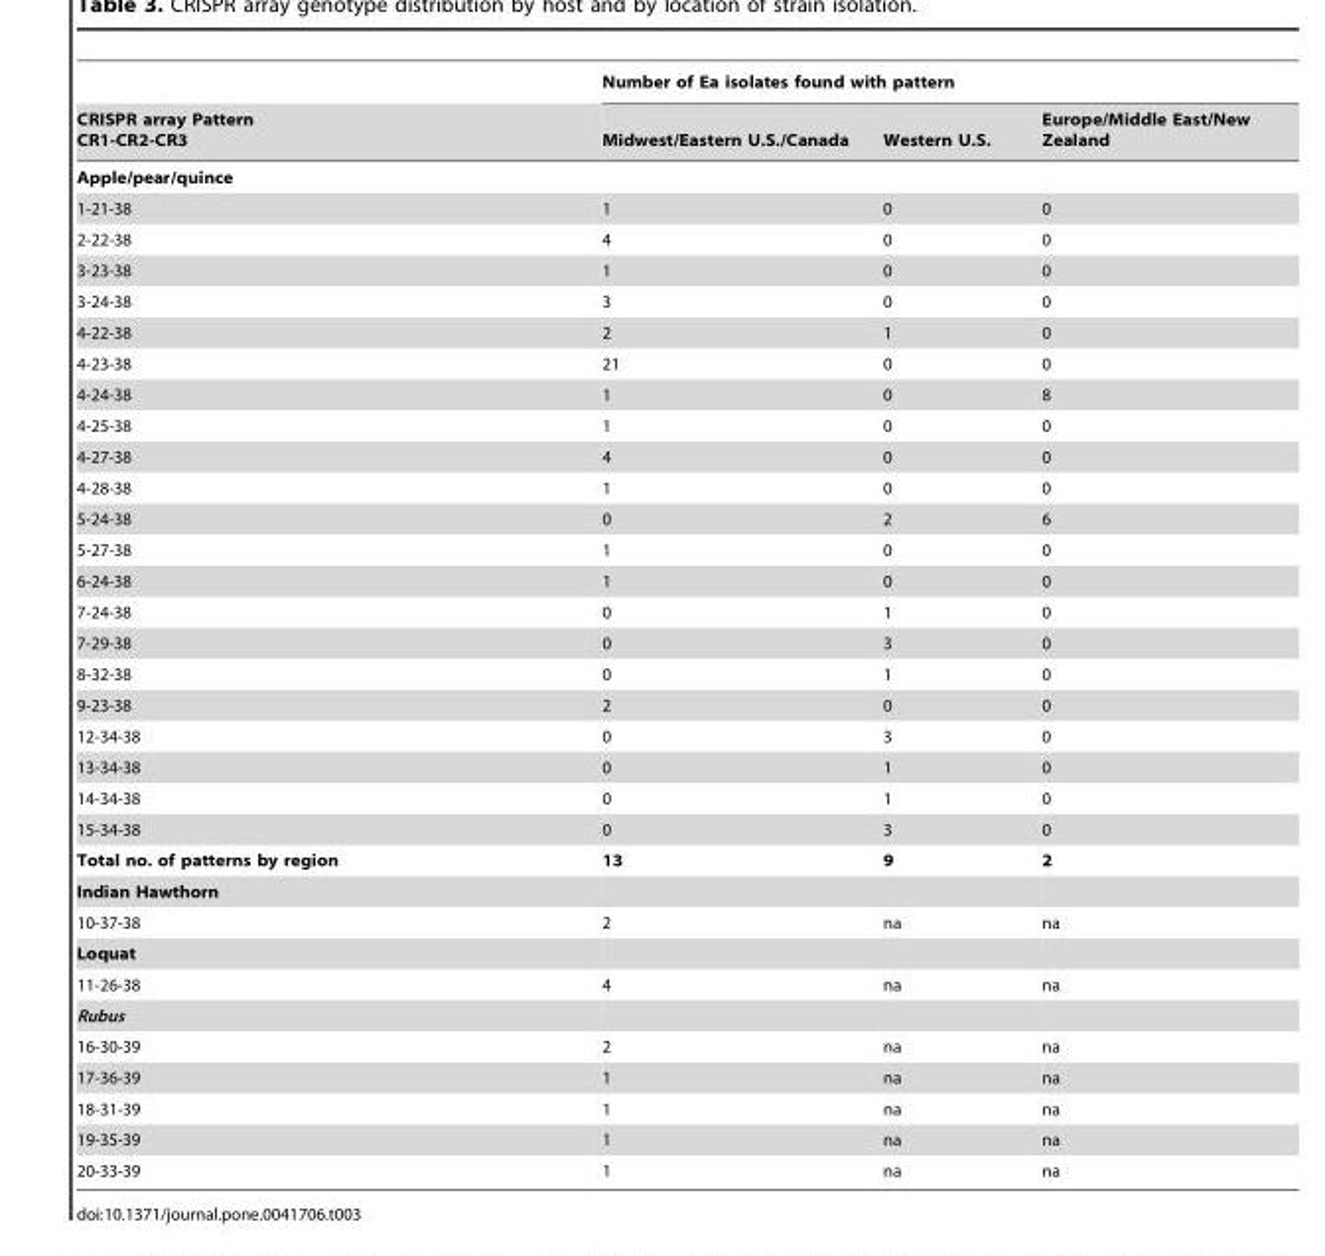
<table><thead><tr><td rowspan="2">CRISPR array Pattern CR1-CR2-CR3</td><td colspan="3">Number of Ea isolates found with pattern</td></tr><tr><td>Midwest/Eastern U.S./Canada</td><td>Western U.S.</td><td>Europe/Middle East/New Zealand</td></tr></thead><tbody><tr><td colspan="4">Apple/pear/quince</td></tr><tr><td>1-21-38</td><td>1</td><td>0</td><td>0</td></tr><tr><td>2-22-38</td><td>4</td><td>0</td><td>0</td></tr><tr><td>3-23-38</td><td>1</td><td>0</td><td>0</td></tr><tr><td>3-24-38</td><td>3</td><td>0</td><td>0</td></tr><tr><td>4-22-38</td><td>2</td><td>1</td><td>0</td></tr><tr><td>4-23-38</td><td>21</td><td>0</td><td>0</td></tr><tr><td>4-24-38</td><td>1</td><td>0</td><td>8</td></tr><tr><td>4-25-38</td><td>1</td><td>0</td><td>0</td></tr><tr><td>4-27-38</td><td>4</td><td>0</td><td>0</td></tr><tr><td>4-28-38</td><td>1</td><td>0</td><td>0</td></tr><tr><td>5-24-38</td><td>0</td><td>2</td><td>6</td></tr><tr><td>5-27-38</td><td>1</td><td>0</td><td>0</td></tr><tr><td>6-24-38</td><td>1</td><td>0</td><td>0</td></tr><tr><td>7-24-38</td><td>0</td><td>1</td><td>0</td></tr><tr><td>7-29-38</td><td>0</td><td>3</td><td>0</td></tr><tr><td>8-32-38</td><td>0</td><td>1</td><td>0</td></tr><tr><td>9-23-38</td><td>2</td><td>0</td><td>0</td></tr><tr><td>12-34-38</td><td>0</td><td>3</td><td>0</td></tr><tr><td>13-34-38</td><td>0</td><td>1</td><td>0</td></tr><tr><td>14-34-38</td><td>0</td><td>1</td><td>0</td></tr><tr><td>15-34-38</td><td>0</td><td>3</td><td>0</td></tr><tr><td>Total no. of patterns by region</td><td>13</td><td>9</td><td>2</td></tr><tr><td colspan="4">Indian Hawthorn</td></tr><tr><td>10-37-38</td><td>2</td><td>na</td><td>na</td></tr><tr><td colspan="4">Loquat</td></tr><tr><td>11-26-38</td><td>4</td><td>na</td><td>na</td></tr><tr><td colspan="4">Rubus</td></tr><tr><td>16-30-39</td><td>2</td><td>na</td><td>na</td></tr><tr><td>17-36-39</td><td>1</td><td>na</td><td>na</td></tr><tr><td>18-31-39</td><td>1</td><td>na</td><td>na</td></tr><tr><td>19-35-39</td><td>1</td><td>na</td><td>na</td></tr><tr><td>20-33-39</td><td>1</td><td>na</td><td>na</td></tr></tbody></table>